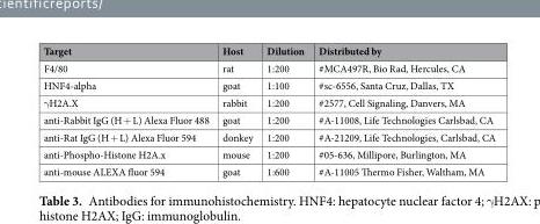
<table><thead><tr><td>Target</td><td>Host</td><td>Dilution</td><td>Distributed by</td></tr></thead><tbody><tr><td>F4/80</td><td>rat</td><td>1:200</td><td>#MCA497R, Bio Rad, Hercules, CA</td></tr><tr><td>HNF4-alpha</td><td>goat</td><td>1:100</td><td>#sc-6556, Santa Cruz, Dallas, TX</td></tr><tr><td>γH2A.X</td><td>rabbit</td><td>1:200</td><td>#2577, Cell Signaling, Danvers, MA</td></tr><tr><td>anti-Rabbit IgG (H + L) Alexa Fluor 488</td><td>goat</td><td>1:200</td><td>#A-11008, Life Technologies Carlsbad, CA</td></tr><tr><td>anti-Rat IgG (H + L) Alexa Fluor 594</td><td>donkey</td><td>1:200</td><td>#A-21209, Life Technologies, Carlsbad, CA</td></tr><tr><td>anti-Phospho-Histone H2A.x</td><td>mouse</td><td>1:200</td><td>#05-636, Millipore, Burlington, MA</td></tr><tr><td>anti-mouse ALEXA fluor 594</td><td>goat</td><td>1:600</td><td>#A-11005 Thermo Fisher, Waltham, MA</td></tr></tbody></table>